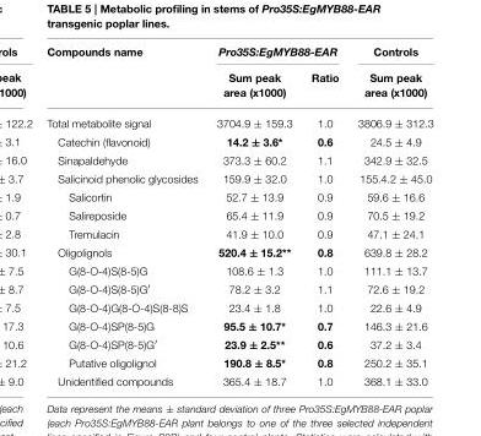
<table><thead><tr><td rowspan="2">Compounds name</td><td colspan="2">Pro35S:EgMYB88-EAR</td><td rowspan="2">Controls Sum peak area (x1000)</td></tr><tr><td>Sum peak area (x1000)</td><td>Ratio</td></tr></thead><tbody><tr><td>Total metabolite signal</td><td>3704.9 ± 159.3</td><td>1.0</td><td>3806.9 ± 312.3</td></tr><tr><td>Catechin (flavonoid)</td><td>14.2 ± 3.6*</td><td>0.6</td><td>24.5 ± 4.9</td></tr><tr><td>Sinapaldehyde</td><td>373.3 ± 60.2</td><td>1.1</td><td>342.9 ± 32.5</td></tr><tr><td>Salicinoid phenolic glycosides</td><td>159.9 ± 32.0</td><td>1.0</td><td>155.4.2 ± 45.0</td></tr><tr><td>Salicortin</td><td>52.7 ± 13.9</td><td>0.9</td><td>59.6 ± 16.6</td></tr><tr><td>Salireposide</td><td>65.4 ± 11.9</td><td>0.9</td><td>70.5 ± 19.2</td></tr><tr><td>Tremulacin</td><td>41.9 ± 10.0</td><td>0.9</td><td>47.1 ± 24.1</td></tr><tr><td>Oligolignols</td><td>520.4 ± 15.2**</td><td>0.8</td><td>639.8 ± 28.2</td></tr><tr><td>G(8-O-4)S(8-5)G</td><td>108.6 ± 1.3</td><td>1.0</td><td>111.1 ± 13.7</td></tr><tr><td>G(8-O-4)S(8-5)G′</td><td>78.2 ± 3.2</td><td>1.1</td><td>72.6 ± 19.2</td></tr><tr><td>G(8-O-4)G(8-O-4)S(8-8)S</td><td>23.4 ± 1.8</td><td>1.0</td><td>22.6 ± 4.9</td></tr><tr><td>G(8-O-4)SP(8-5)G</td><td>95.5 ± 10.7*</td><td>0.7</td><td>146.3 ± 21.6</td></tr><tr><td>G(8-O-4)SP(8-5)G′</td><td>23.9 ± 2.5**</td><td>0.6</td><td>37.2 ± 3.4</td></tr><tr><td>Putative oligolignol</td><td>190.8 ± 8.5*</td><td>0.8</td><td>250.2 ± 35.1</td></tr><tr><td>Unidentified compounds</td><td>365.4 ± 18.7</td><td>1.0</td><td>368.1 ± 33.0</td></tr></tbody></table>